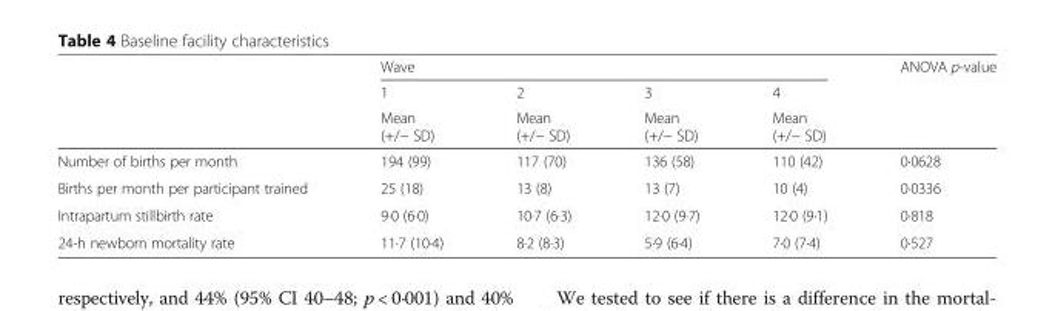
<table><thead><tr><td rowspan="3"></td><td colspan="4">Wave</td><td rowspan="3">ANOVA p-value</td></tr><tr><td rowspan="2">1 Mean (+/− SD)</td><td rowspan="2">2 Mean (+/− SD)</td><td rowspan="2">3 Mean (+/− SD)</td><td rowspan="2">4 Mean (+/− SD)</td></tr><tr></tr></thead><tbody><tr><td>Number of births per month</td><td>194 (99)</td><td>117 (70)</td><td>136 (58)</td><td>110 (42)</td><td>0·0628</td></tr><tr><td>Births per month per participant trained</td><td>25 (18)</td><td>13 (8)</td><td>13 (7)</td><td>10 (4)</td><td>0·0336</td></tr><tr><td>Intrapartum stillbirth rate</td><td>9·0 (6·0)</td><td>10·7 (6·3)</td><td>12·0 (9·7)</td><td>12·0 (9·1)</td><td>0·818</td></tr><tr><td>24-h newborn mortality rate</td><td>11·7 (10·4)</td><td>8·2 (8·3)</td><td>5·9 (6·4)</td><td>7·0 (7·4)</td><td>0·527</td></tr></tbody></table>